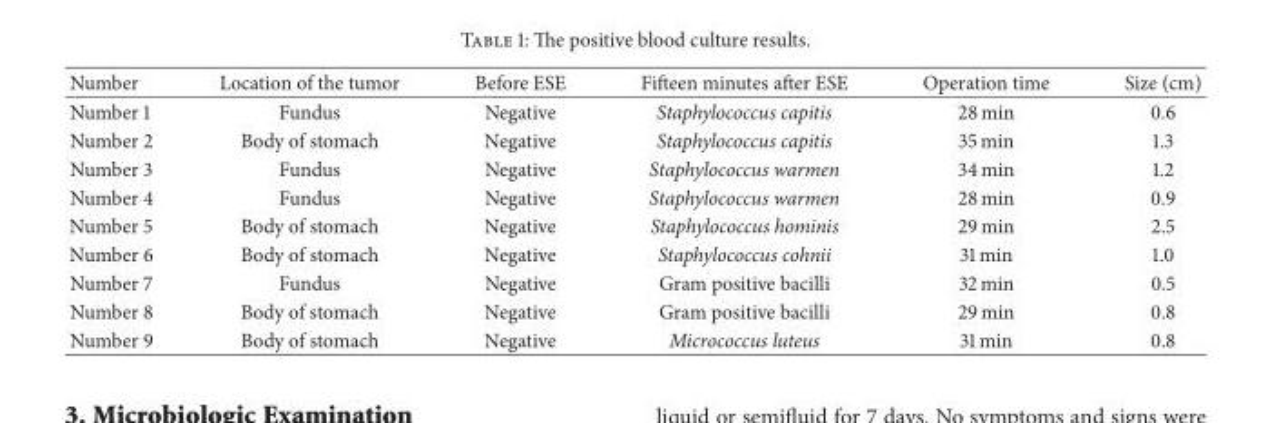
<table><thead><tr><td>Number</td><td>Location of the tumor</td><td>Before ESE</td><td>Fifteen minutes after ESE</td><td>Operation time</td><td>Size (cm)</td></tr></thead><tbody><tr><td>Number 1</td><td>Fundus</td><td>Negative</td><td>Staphylococcus capitis</td><td>28 min</td><td>0.6</td></tr><tr><td>Number 2</td><td>Body of stomach</td><td>Negative</td><td>Staphylococcus capitis</td><td>35 min</td><td>1.3</td></tr><tr><td>Number 3</td><td>Fundus</td><td>Negative</td><td>Staphylococcus warmen</td><td>34 min</td><td>1.2</td></tr><tr><td>Number 4</td><td>Fundus</td><td>Negative</td><td>Staphylococcus warmen</td><td>28 min</td><td>0.9</td></tr><tr><td>Number 5</td><td>Body of stomach</td><td>Negative</td><td>Staphylococcus hominis</td><td>29 min</td><td>2.5</td></tr><tr><td>Number 6</td><td>Body of stomach</td><td>Negative</td><td>Staphylococcus cohnii</td><td>31 min</td><td>1.0</td></tr><tr><td>Number 7</td><td>Fundus</td><td>Negative</td><td>Gram positive bacilli</td><td>32 min</td><td>0.5</td></tr><tr><td>Number 8</td><td>Body of stomach</td><td>Negative</td><td>Gram positive bacilli</td><td>29 min</td><td>0.8</td></tr><tr><td>Number 9</td><td>Body of stomach</td><td>Negative</td><td>Micrococcus luteus</td><td>31 min</td><td>0.8</td></tr></tbody></table>